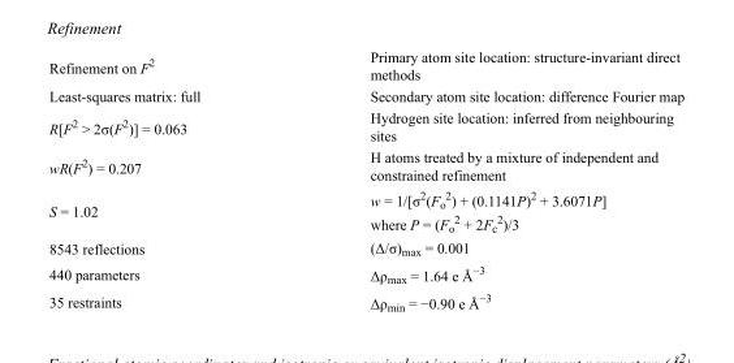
<table><tbody><tr><td>Refinement on F<sup>2</sup></td><td>Primary atom site location: structure-invariant direct methods</td></tr><tr><td>Least-squares matrix: full</td><td>Secondary atom site location: difference Fourier map</td></tr><tr><td>R[F<sup>2</sup> &gt; 2σ(F<sup>2</sup>)] = 0.063</td><td>Hydrogen site location: inferred from neighbouring sites</td></tr><tr><td>wR(F<sup>2</sup>) = 0.207</td><td>H atoms treated by a mixture of independent and constrained refinement</td></tr><tr><td>S = 1.02</td><td>w = 1/[σ<sup>2</sup>(F<sub>o</sub> <sup>2</sup>) + (0.1141P)<sup>2</sup> + 3.6071P] where P = (F<sub>o</sub> <sup>2</sup> + 2F<sub>c</sub> <sup>2</sup>)/3</td></tr><tr><td>8543 reflections</td><td>(Δ/σ)<sub>max</sub> = 0.001</td></tr><tr><td>440 parameters</td><td>Δρ<sub>max</sub> = 1.64 e Å<sup>−3</sup></td></tr><tr><td>35 restraints</td><td>Δρ<sub>min</sub> = −0.90 e Å<sup>−3</sup></td></tr></tbody></table>